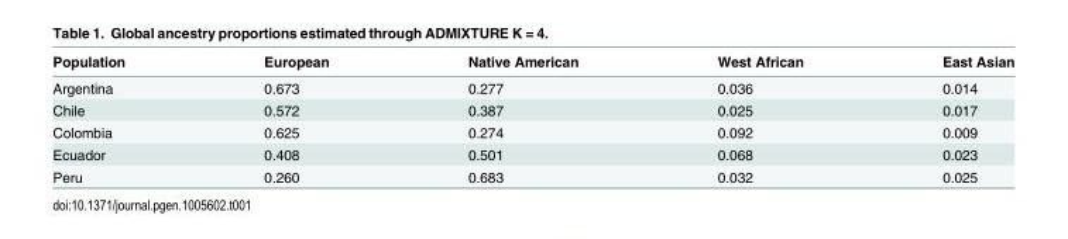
<table><thead><tr><td>Population</td><td>European</td><td>Native American</td><td>West African</td><td>East Asian</td></tr></thead><tbody><tr><td>Argentina</td><td>0.673</td><td>0.277</td><td>0.036</td><td>0.014</td></tr><tr><td>Chile</td><td>0.572</td><td>0.387</td><td>0.025</td><td>0.017</td></tr><tr><td>Colombia</td><td>0.625</td><td>0.274</td><td>0.092</td><td>0.009</td></tr><tr><td>Ecuador</td><td>0.408</td><td>0.501</td><td>0.068</td><td>0.023</td></tr><tr><td>Peru</td><td>0.260</td><td>0.683</td><td>0.032</td><td>0.025</td></tr></tbody></table>